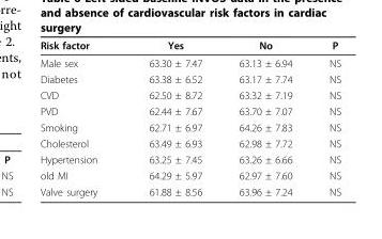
<table><thead><tr><td>Risk factor</td><td>Yes</td><td>No</td><td>P</td></tr></thead><tbody><tr><td>Male sex</td><td>63.30 ± 7.47</td><td>63.13 ± 6.94</td><td>NS</td></tr><tr><td>Diabetes</td><td>63.38 ± 6.52</td><td>63.17 ± 7.74</td><td>NS</td></tr><tr><td>CVD</td><td>62.50 ± 8.72</td><td>63.32 ± 7.19</td><td>NS</td></tr><tr><td>PVD</td><td>62.44 ± 7.67</td><td>63.70 ± 7.07</td><td>NS</td></tr><tr><td>Smoking</td><td>62.71 ± 6.97</td><td>64.26 ± 7.83</td><td>NS</td></tr><tr><td>Cholesterol</td><td>63.49 ± 6.93</td><td>62.98 ± 7.72</td><td>NS</td></tr><tr><td>Hypertension</td><td>63.25 ± 7.45</td><td>63.26 ± 6.66</td><td>NS</td></tr><tr><td>old MI</td><td>64.29 ± 5.97</td><td>62.97 ± 7.60</td><td>NS</td></tr><tr><td>Valve surgery</td><td>61.88 ± 8.56</td><td>63.96 ± 7.24</td><td>NS</td></tr></tbody></table>